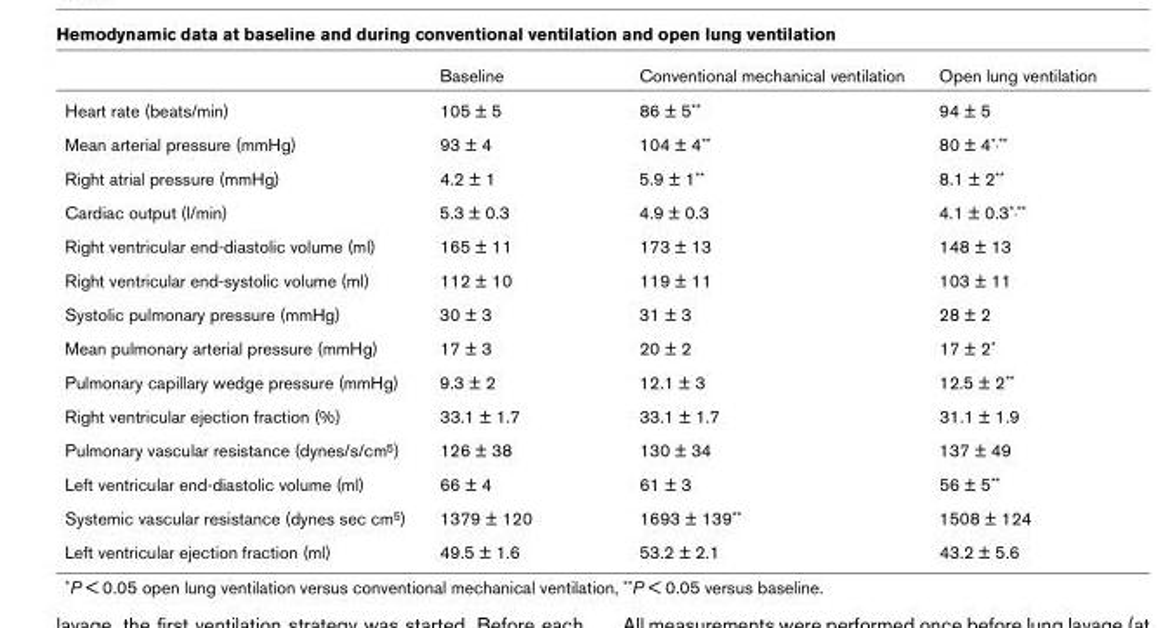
<table><thead><tr><td></td><td>Baseline</td><td>Conventional mechanical ventilation</td><td>Open lung ventilation</td></tr></thead><tbody><tr><td>Heart rate (beats/min)</td><td>105 ± 5</td><td>86 ± 5**</td><td>94 ± 5</td></tr><tr><td>Mean arterial pressure (mmHg)</td><td>93 ± 4</td><td>104 ± 4**</td><td>80 ± 4*,**</td></tr><tr><td>Right atrial pressure (mmHg)</td><td>4.2 ± 1</td><td>5.9 ± 1**</td><td>8.1 ± 2**</td></tr><tr><td>Cardiac output (l/min)</td><td>5.3 ± 0.3</td><td>4.9 ± 0.3</td><td>4.1 ± 0.3*,**</td></tr><tr><td>Right ventricular end-diastolic volume (ml)</td><td>165 ± 11</td><td>173 ± 13</td><td>148 ± 13</td></tr><tr><td>Right ventricular end-systolic volume (ml)</td><td>112 ± 10</td><td>119 ± 11</td><td>103 ± 11</td></tr><tr><td>Systolic pulmonary pressure (mmHg)</td><td>30 ± 3</td><td>31 ± 3</td><td>28 ± 2</td></tr><tr><td>Mean pulmonary arterial pressure (mmHg)</td><td>17 ± 3</td><td>20 ± 2</td><td>17 ± 2*</td></tr><tr><td>Pulmonary capillary wedge pressure (mmHg)</td><td>9.3 ± 2</td><td>12.1 ± 3</td><td>12.5 ± 2**</td></tr><tr><td>Right ventricular ejection fraction (%)</td><td>33.1 ± 1.7</td><td>33.1 ± 1.7</td><td>31.1 ± 1.9</td></tr><tr><td>Pulmonary vascular resistance (dynes/s/cm5)</td><td>126 ± 38</td><td>130 ± 34</td><td>137 ± 49</td></tr><tr><td>Left ventricular end-diastolic volume (ml)</td><td>66 ± 4</td><td>61 ± 3</td><td>56 ± 5**</td></tr><tr><td>Systemic vascular resistance (dynes sec cm5)</td><td>1379 ± 120</td><td>1693 ± 139**</td><td>1508 ± 124</td></tr><tr><td>Left ventricular ejection fraction (ml)</td><td>49.5 ± 1.6</td><td>53.2 ± 2.1</td><td>43.2 ± 5.6</td></tr></tbody></table>